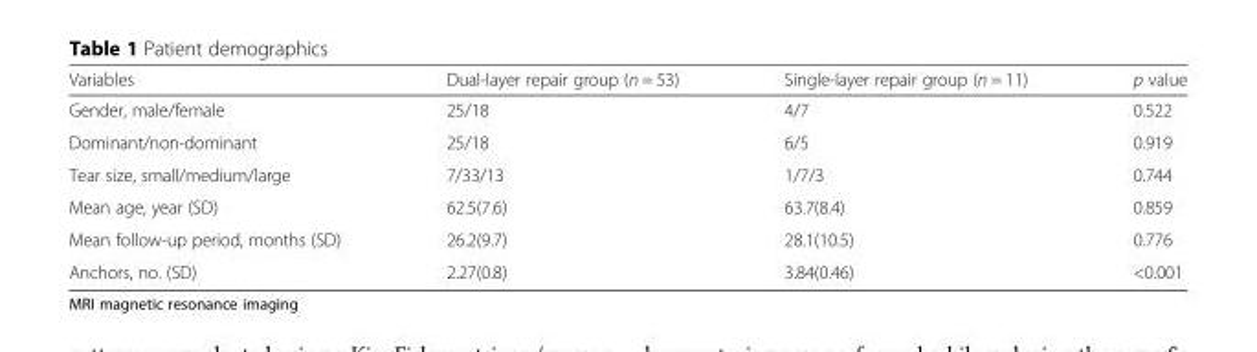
<table><thead><tr><td>Variables</td><td>Dual-layer repair group (n = 53)</td><td>Single-layer repair group (n = 11)</td><td>p value</td></tr></thead><tbody><tr><td>Gender, male/female</td><td>25/18</td><td>4/7</td><td>0.522</td></tr><tr><td>Dominant/non-dominant</td><td>25/18</td><td>6/5</td><td>0.919</td></tr><tr><td>Tear size, small/medium/large</td><td>7/33/13</td><td>1/7/3</td><td>0.744</td></tr><tr><td>Mean age, year (SD)</td><td>62.5(7.6)</td><td>63.7(8.4)</td><td>0.859</td></tr><tr><td>Mean follow-up period, months (SD)</td><td>26.2(9.7)</td><td>28.1(10.5)</td><td>0.776</td></tr><tr><td>Anchors, no. (SD)</td><td>2.27(0.8)</td><td>3.84(0.46)</td><td>&lt;0.001</td></tr></tbody></table>